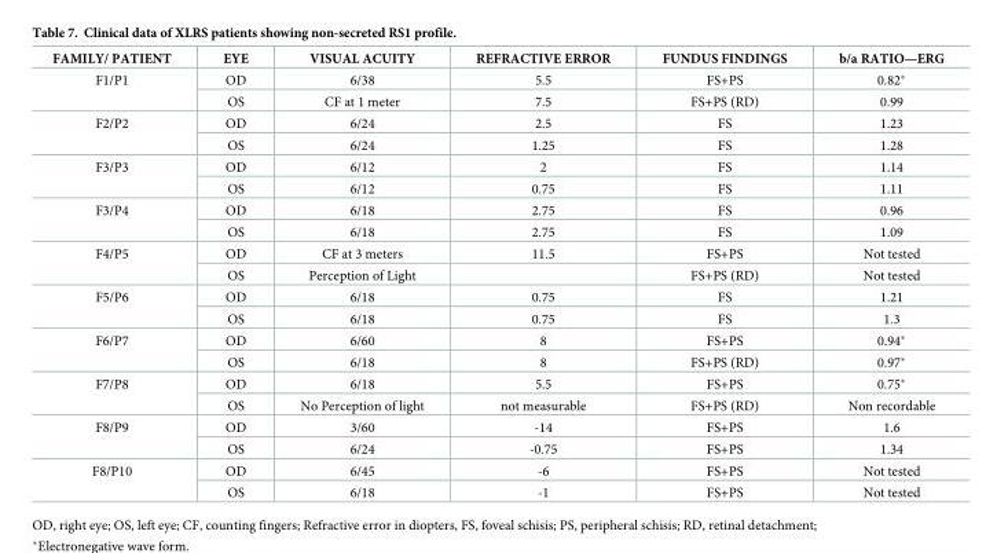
<table><thead><tr><td>FAMILY/ PATIENT</td><td>EYE</td><td>VISUAL ACUITY</td><td>REFRACTIVE ERROR</td><td>FUNDUS FINDINGS</td><td>b/a RATIO—ERG</td></tr></thead><tbody><tr><td rowspan="2">F1/P1</td><td>OD</td><td>6/38</td><td>5.5</td><td>FS+PS</td><td>0.82*</td></tr><tr><td>OS</td><td>CF at 1 meter</td><td>7.5</td><td>FS+PS (RD)</td><td>0.99</td></tr><tr><td rowspan="2">F2/P2</td><td>OD</td><td>6/24</td><td>2.5</td><td>FS</td><td>1.23</td></tr><tr><td>OS</td><td>6/24</td><td>1.25</td><td>FS</td><td>1.28</td></tr><tr><td rowspan="2">F3/P3</td><td>OD</td><td>6/12</td><td>2</td><td>FS</td><td>1.14</td></tr><tr><td>OS</td><td>6/12</td><td>0.75</td><td>FS</td><td>1.11</td></tr><tr><td rowspan="2">F3/P4</td><td>OD</td><td>6/18</td><td>2.75</td><td>FS</td><td>0.96</td></tr><tr><td>OS</td><td>6/18</td><td>2.75</td><td>FS</td><td>1.09</td></tr><tr><td rowspan="2">F4/P5</td><td>OD</td><td>CF at 3 meters</td><td>11.5</td><td>FS+PS</td><td>Not tested</td></tr><tr><td>OS</td><td>Perception of Light</td><td></td><td>FS+PS (RD)</td><td>Not tested</td></tr><tr><td rowspan="2">F5/P6</td><td>OD</td><td>6/18</td><td>0.75</td><td>FS</td><td>1.21</td></tr><tr><td>OS</td><td>6/18</td><td>0.75</td><td>FS</td><td>1.3</td></tr><tr><td rowspan="2">F6/P7</td><td>OD</td><td>6/60</td><td>8</td><td>FS+PS</td><td>0.94*</td></tr><tr><td>OS</td><td>6/18</td><td>8</td><td>FS+PS (RD)</td><td>0.97*</td></tr><tr><td rowspan="2">F7/P8</td><td>OD</td><td>6/18</td><td>5.5</td><td>FS+PS</td><td>0.75*</td></tr><tr><td>OS</td><td>No Perception of light</td><td>not measurable</td><td>FS+PS (RD)</td><td>Non recordable</td></tr><tr><td rowspan="2">F8/P9</td><td>OD</td><td>3/60</td><td>-14</td><td>FS+PS</td><td>1.6</td></tr><tr><td>OS</td><td>6/24</td><td>-0.75</td><td>FS+PS</td><td>1.34</td></tr><tr><td rowspan="2">F8/P10</td><td>OD</td><td>6/45</td><td>-6</td><td>FS+PS</td><td>Not tested</td></tr><tr><td>OS</td><td>6/18</td><td>-1</td><td>FS+PS</td><td>Not tested</td></tr></tbody></table>